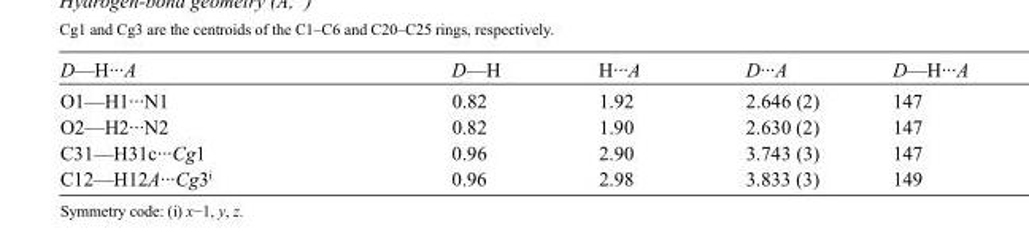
<table><tbody><tr><td>D—H···A</td><td>D—H</td><td>H···A</td><td>D···A</td><td>D—H···A</td></tr><tr><td>O1—H1···N1</td><td>0.82</td><td>1.92</td><td>2.646 (2)</td><td>147</td></tr><tr><td>O2—H2···N2</td><td>0.82</td><td>1.90</td><td>2.630 (2)</td><td>147</td></tr><tr><td>C31—H31c···Cg1</td><td>0.96</td><td>2.90</td><td>3.743 (3)</td><td>147</td></tr><tr><td>C12—H12A···Cg3<sup>i</sup></td><td>0.96</td><td>2.98</td><td>3.833 (3)</td><td>149</td></tr></tbody></table>